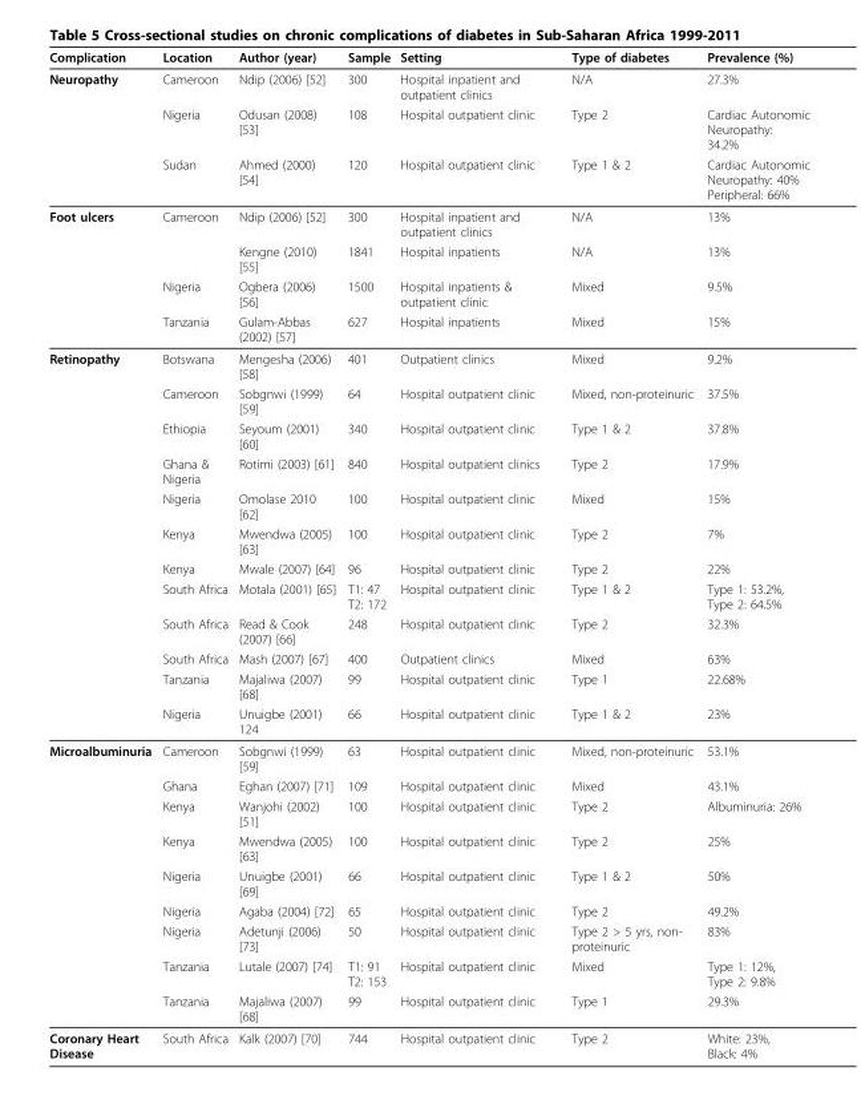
<table><thead><tr><td>Complication</td><td>Location</td><td>Author (year)</td><td>Sample</td><td>Setting</td><td>Type of diabetes</td><td>Prevalence (%)</td></tr></thead><tbody><tr><td rowspan="3">Neuropathy</td><td>Cameroon</td><td>Ndip (2006) [52]</td><td>300</td><td>Hospital inpatient and outpatient clinics</td><td>N/A</td><td>27.3%</td></tr><tr><td>Nigeria</td><td>Odusan (2008) [53]</td><td>108</td><td>Hospital outpatient clinic</td><td>Type 2</td><td>Cardiac Autonomic Neuropathy: 34.2%</td></tr><tr><td>Sudan</td><td>Ahmed (2000) [54]</td><td>120</td><td>Hospital outpatient clinic</td><td>Type 1 &amp; 2</td><td>Cardiac Autonomic Neuropathy: 40% Peripheral: 66%</td></tr><tr><td rowspan="4">Foot ulcers</td><td>Cameroon</td><td>Ndip (2006) [52]</td><td>300</td><td>Hospital inpatient and outpatient clinics</td><td>N/A</td><td>13%</td></tr><tr><td></td><td>Kengne (2010) [55]</td><td>1841</td><td>Hospital inpatients</td><td>N/A</td><td>13%</td></tr><tr><td>Nigeria</td><td>Ogbera (2006) [56]</td><td>1500</td><td>Hospital inpatients &amp; outpatient clinic</td><td>Mixed</td><td>9.5%</td></tr><tr><td>Tanzania</td><td>Gulam-Abbas (2002) [57]</td><td>627</td><td>Hospital inpatients</td><td>Mixed</td><td>15%</td></tr><tr><td rowspan="12">Retinopathy</td><td>Botswana</td><td>Mengesha (2006) [58]</td><td>401</td><td>Outpatient clinics</td><td>Mixed</td><td>9.2%</td></tr><tr><td>Cameroon</td><td>Sobgnwi (1999) [59]</td><td>64</td><td>Hospital outpatient clinic</td><td>Mixed, non-proteinuric</td><td>37.5%</td></tr><tr><td>Ethiopia</td><td>Seyoum (2001) [60]</td><td>340</td><td>Hospital outpatient clinic</td><td>Type 1 &amp; 2</td><td>37.8%</td></tr><tr><td>Ghana &amp; Nigeria</td><td>Rotimi (2003) [61]</td><td>840</td><td>Hospital outpatient clinics</td><td>Type 2</td><td>17.9%</td></tr><tr><td>Nigeria</td><td>Omolase 2010 [62]</td><td>100</td><td>Hospital outpatient clinic</td><td>Mixed</td><td>15%</td></tr><tr><td>Kenya</td><td>Mwendwa (2005) [63]</td><td>100</td><td>Hospital outpatient clinic</td><td>Type 2</td><td>7%</td></tr><tr><td>Kenya</td><td>Mwale (2007) [64]</td><td>96</td><td>Hospital outpatient clinic</td><td>Type 2</td><td>22%</td></tr><tr><td>South Africa</td><td>Motala (2001) [65]</td><td>T1: 47 T2: 172</td><td>Hospital outpatient clinic</td><td>Type 1 &amp; 2</td><td>Type 1: 53.2%, Type 2: 64.5%</td></tr><tr><td>South Africa</td><td>Read &amp; Cook (2007) [66]</td><td>248</td><td>Hospital outpatient clinic</td><td>Type 2</td><td>32.3%</td></tr><tr><td>South Africa</td><td>Mash (2007) [67]</td><td>400</td><td>Outpatient clinics</td><td>Mixed</td><td>63%</td></tr><tr><td>Tanzania</td><td>Majaliwa (2007) [68]</td><td>99</td><td>Hospital outpatient clinic</td><td>Type 1</td><td>22.68%</td></tr><tr><td>Nigeria</td><td>Unuigbe (2001) 124</td><td>66</td><td>Hospital outpatient clinic</td><td>Type 1 &amp; 2</td><td>23%</td></tr><tr><td rowspan="9">Microalbuminuria</td><td>Cameroon</td><td>Sobgnwi (1999) [59]</td><td>63</td><td>Hospital outpatient clinic</td><td>Mixed, non-proteinuric</td><td>53.1%</td></tr><tr><td>Ghana</td><td>Eghan (2007) [71]</td><td>109</td><td>Hospital outpatient clinic</td><td>Mixed</td><td>43.1%</td></tr><tr><td>Kenya</td><td>Wanjohi (2002) [51]</td><td>100</td><td>Hospital outpatient clinic</td><td>Type 2</td><td>Albuminuria: 26%</td></tr><tr><td>Kenya</td><td>Mwendwa (2005) [63]</td><td>100</td><td>Hospital outpatient clinic</td><td>Type 2</td><td>25%</td></tr><tr><td>Nigeria</td><td>Unuigbe (2001) [69]</td><td>66</td><td>Hospital outpatient clinic</td><td>Type 1 &amp; 2</td><td>50%</td></tr><tr><td>Nigeria</td><td>Agaba (2004) [72]</td><td>65</td><td>Hospital outpatient clinic</td><td>Type 2</td><td>49.2%</td></tr><tr><td>Nigeria</td><td>Adetunji (2006) [73]</td><td>50</td><td>Hospital outpatient clinic</td><td>Type 2 &gt; 5 yrs, non- proteinuric</td><td>83%</td></tr><tr><td>Tanzania</td><td>Lutale (2007) [74]</td><td>T1: 91 T2: 153</td><td>Hospital outpatient clinic</td><td>Mixed</td><td>Type 1: 12%, Type 2: 9.8%</td></tr><tr><td>Tanzania</td><td>Majaliwa (2007) [68]</td><td>99</td><td>Hospital outpatient clinic</td><td>Type 1</td><td>29.3%</td></tr><tr><td>Coronary Heart Disease</td><td>South Africa</td><td>Kalk (2007) [70]</td><td>744</td><td>Hospital outpatient clinic</td><td>Type 2</td><td>White: 23%, Black: 4%</td></tr></tbody></table>